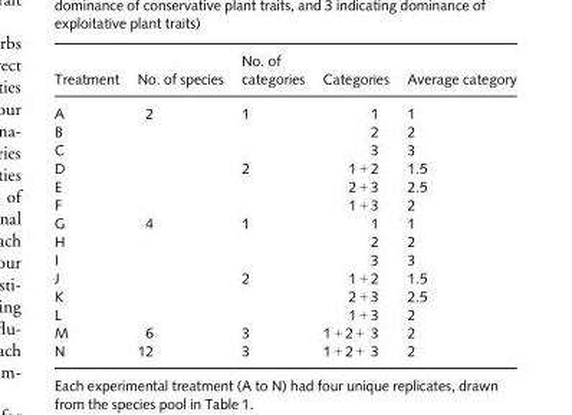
<table><thead><tr><td>Treatment</td><td>No. of species</td><td>No. of categories</td><td>Categories</td><td>Average category</td></tr></thead><tbody><tr><td>A</td><td>2</td><td>1</td><td>1</td><td>1</td></tr><tr><td>B</td><td></td><td></td><td>2</td><td>2</td></tr><tr><td>C</td><td></td><td></td><td>3</td><td>3</td></tr><tr><td>D</td><td></td><td>2</td><td>1 + 2</td><td>1.5</td></tr><tr><td>E</td><td></td><td></td><td>2 + 3</td><td>2.5</td></tr><tr><td>F</td><td></td><td></td><td>1 + 3</td><td>2</td></tr><tr><td>G</td><td>4</td><td>1</td><td>1</td><td>1</td></tr><tr><td>H</td><td></td><td></td><td>2</td><td>2</td></tr><tr><td>I</td><td></td><td></td><td>3</td><td>3</td></tr><tr><td>J</td><td></td><td>2</td><td>1 + 2</td><td>1.5</td></tr><tr><td>K</td><td></td><td></td><td>2 + 3</td><td>2.5</td></tr><tr><td>L</td><td></td><td></td><td>1 + 3</td><td>2</td></tr><tr><td>M</td><td>6</td><td>3</td><td>1 + 2 + 3</td><td>2</td></tr><tr><td>N</td><td>12</td><td>3</td><td>1 + 2 + 3</td><td>2</td></tr></tbody></table>